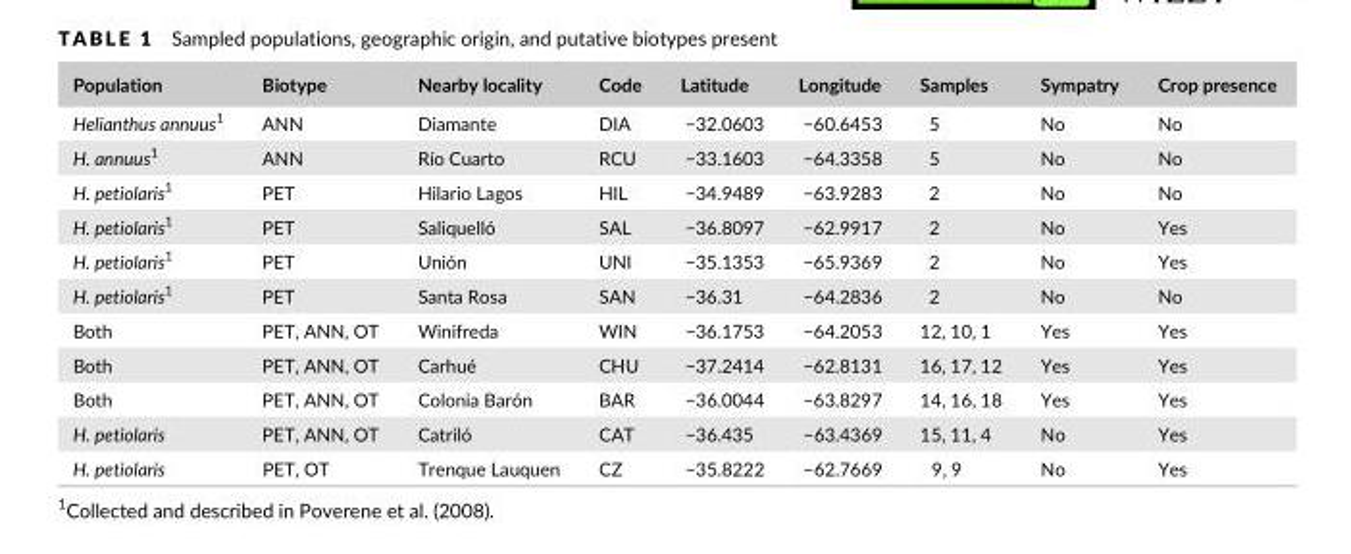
<table><thead><tr><td>Population</td><td>Biotype</td><td>Nearby locality</td><td>Code</td><td>Latitude</td><td>Longitude</td><td>Samples</td><td>Sympatry</td><td>Crop presence</td></tr></thead><tbody><tr><td>Helianthus annuus<sup>1</sup></td><td>ANN</td><td>Diamante</td><td>DIA</td><td>−32.0603</td><td>−60.6453</td><td>5</td><td>No</td><td>No</td></tr><tr><td>H. annuus<sup>1</sup></td><td>ANN</td><td>Río Cuarto</td><td>RCU</td><td>−33.1603</td><td>−64.3358</td><td>5</td><td>No</td><td>No</td></tr><tr><td>H. petiolaris<sup>1</sup></td><td>PET</td><td>Hilario Lagos</td><td>HIL</td><td>−34.9489</td><td>−63.9283</td><td>2</td><td>No</td><td>No</td></tr><tr><td>H. petiolaris<sup>1</sup></td><td>PET</td><td>Saliquelló</td><td>SAL</td><td>−36.8097</td><td>−62.9917</td><td>2</td><td>No</td><td>Yes</td></tr><tr><td>H. petiolaris<sup>1</sup></td><td>PET</td><td>Unión</td><td>UNI</td><td>−35.1353</td><td>−65.9369</td><td>2</td><td>No</td><td>Yes</td></tr><tr><td>H. petiolaris<sup>1</sup></td><td>PET</td><td>Santa Rosa</td><td>SAN</td><td>−36.31</td><td>−64.2836</td><td>2</td><td>No</td><td>No</td></tr><tr><td>Both</td><td>PET, ANN, OT</td><td>Winifreda</td><td>WIN</td><td>−36.1753</td><td>−64.2053</td><td>12, 10, 1</td><td>Yes</td><td>Yes</td></tr><tr><td>Both</td><td>PET, ANN, OT</td><td>Carhué</td><td>CHU</td><td>−37.2414</td><td>−62.8131</td><td>16, 17, 12</td><td>Yes</td><td>Yes</td></tr><tr><td>Both</td><td>PET, ANN, OT</td><td>Colonia Barón</td><td>BAR</td><td>−36.0044</td><td>−63.8297</td><td>14, 16, 18</td><td>Yes</td><td>Yes</td></tr><tr><td>H. petiolaris</td><td>PET, ANN, OT</td><td>Catriló</td><td>CAT</td><td>−36.435</td><td>−63.4369</td><td>15, 11, 4</td><td>No</td><td>Yes</td></tr><tr><td>H. petiolaris</td><td>PET, OT</td><td>Trenque Lauquen</td><td>CZ</td><td>−35.8222</td><td>−62.7669</td><td>9, 9</td><td>No</td><td>Yes</td></tr></tbody></table>